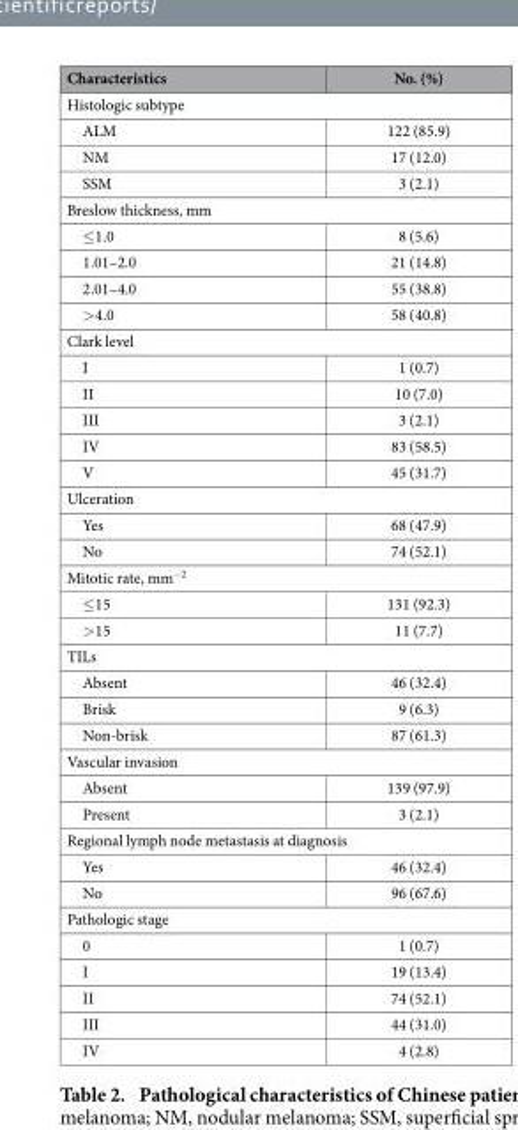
<table><thead><tr><td>Characteristics</td><td>No. (%)</td></tr></thead><tbody><tr><td colspan="2">Histologic subtype</td></tr><tr><td>ALM</td><td>122 (85.9)</td></tr><tr><td>NM</td><td>17 (12.0)</td></tr><tr><td>SSM</td><td>3 (2.1)</td></tr><tr><td colspan="2">Breslow thickness, mm</td></tr><tr><td>≤ 1.0</td><td>8 (5.6)</td></tr><tr><td>1.01–2.0</td><td>21 (14.8)</td></tr><tr><td>2.01–4.0</td><td>55 (38.8)</td></tr><tr><td>&gt; 4.0</td><td>58 (40.8)</td></tr><tr><td colspan="2">Clark level</td></tr><tr><td>I</td><td>1 (0.7)</td></tr><tr><td>II</td><td>10 (7.0)</td></tr><tr><td>III</td><td>3 (2.1)</td></tr><tr><td>IV</td><td>83 (58.5)</td></tr><tr><td>V</td><td>45 (31.7)</td></tr><tr><td colspan="2">Ulceration</td></tr><tr><td>Yes</td><td>68 (47.9)</td></tr><tr><td>No</td><td>74 (52.1)</td></tr><tr><td colspan="2">Mitotic rate, mm<sup>−2</sup></td></tr><tr><td>≤ 15</td><td>131 (92.3)</td></tr><tr><td>&gt; 15</td><td>11 (7.7)</td></tr><tr><td colspan="2">TILs</td></tr><tr><td>Absent</td><td>46 (32.4)</td></tr><tr><td>Brisk</td><td>9 (6.3)</td></tr><tr><td>Non-brisk</td><td>87 (61.3)</td></tr><tr><td colspan="2">Vascular invasion</td></tr><tr><td>Absent</td><td>139 (97.9)</td></tr><tr><td>Present</td><td>3 (2.1)</td></tr><tr><td colspan="2">Regional lymph node metastasis at diagnosis</td></tr><tr><td>Yes</td><td>46 (32.4)</td></tr><tr><td>No</td><td>96 (67.6)</td></tr><tr><td colspan="2">Pathologic stage</td></tr><tr><td>0</td><td>1 (0.7)</td></tr><tr><td>I</td><td>19 (13.4)</td></tr><tr><td>II</td><td>74 (52.1)</td></tr><tr><td>III</td><td>44 (31.0)</td></tr><tr><td>IV</td><td>4 (2.8)</td></tr></tbody></table>